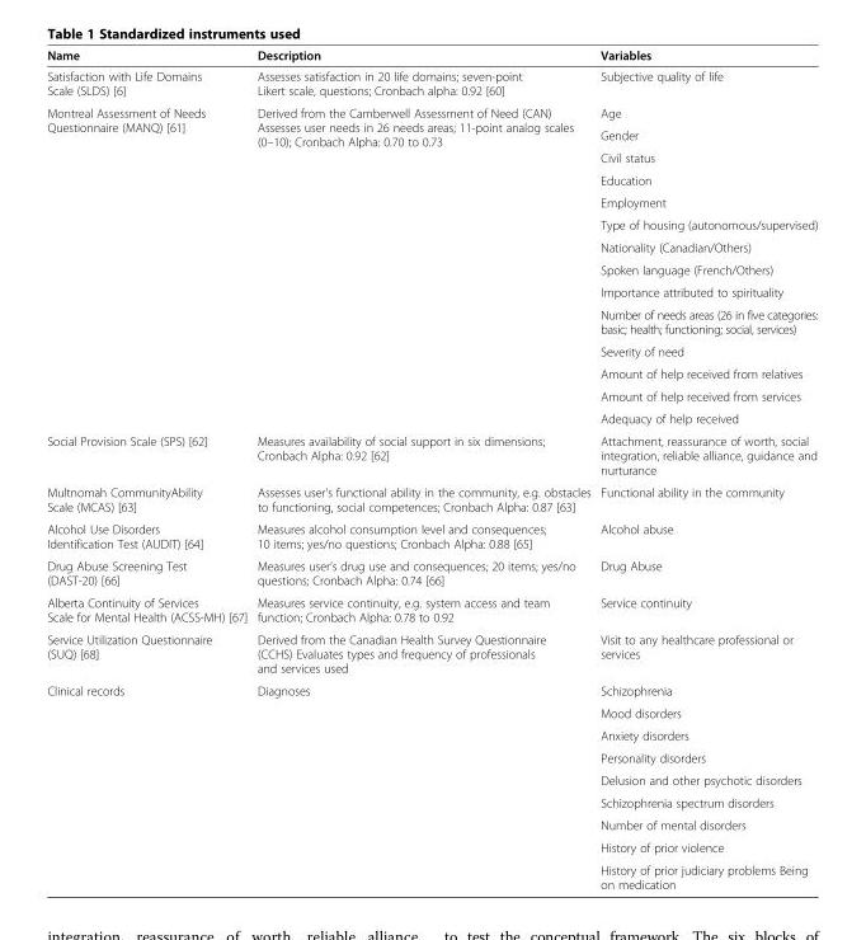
<table><thead><tr><td>Name</td><td>Description</td><td>Variables</td></tr></thead><tbody><tr><td>Satisfaction with Life Domains Scale (SLDS) [6]</td><td>Assesses satisfaction in 20 life domains; seven-point Likert scale, questions; Cronbach alpha: 0.92 [60]</td><td>Subjective quality of life</td></tr><tr><td rowspan="14">Montreal Assessment of Needs Questionnaire (MANQ) [61]</td><td rowspan="14">Derived from the Camberwell Assessment of Need (CAN) Assesses user needs in 26 needs areas; 11-point analog scales (0–10); Cronbach Alpha: 0.70 to 0.73</td><td>Age</td></tr><tr><td>Gender</td></tr><tr><td>Civil status</td></tr><tr><td>Education</td></tr><tr><td>Employment</td></tr><tr><td>Type of housing (autonomous/supervised)</td></tr><tr><td>Nationality (Canadian/Others)</td></tr><tr><td>Spoken language (French/Others)</td></tr><tr><td>Importance attributed to spirituality</td></tr><tr><td>Number of needs areas (26 in five categories: basic; health; functioning; social, services)</td></tr><tr><td>Severity of need</td></tr><tr><td>Amount of help received from relatives</td></tr><tr><td>Amount of help received from services</td></tr><tr><td>Adequacy of help received</td></tr><tr><td>Social Provision Scale (SPS) [62]</td><td>Measures availability of social support in six dimensions; Cronbach Alpha: 0.92 [62]</td><td>Attachment, reassurance of worth, social integration, reliable alliance, guidance and nurturance</td></tr><tr><td>Multnomah CommunityAbility Scale (MCAS) [63]</td><td>Assesses user’s functional ability in the community, e.g. obstacles to functioning, social competences; Cronbach Alpha: 0.87 [63]</td><td>Functional ability in the community</td></tr><tr><td>Alcohol Use Disorders Identification Test (AUDIT) [64]</td><td>Measures alcohol consumption level and consequences; 10 items; yes/no questions; Cronbach Alpha: 0.88 [65]</td><td>Alcohol abuse</td></tr><tr><td>Drug Abuse Screening Test (DAST-20) [66]</td><td>Measures user’s drug use and consequences; 20 items; yes/no questions; Cronbach Alpha: 0.74 [66]</td><td>Drug Abuse</td></tr><tr><td>Alberta Continuity of Services Scale for Mental Health (ACSS-MH) [67]</td><td>Measures service continuity, e.g. system access and team function; Cronbach Alpha: 0.78 to 0.92</td><td>Service continuity</td></tr><tr><td>Service Utilization Questionnaire (SUQ) [68]</td><td>Derived from the Canadian Health Survey Questionnaire (CCHS) Evaluates types and frequency of professionals and services used</td><td>Visit to any healthcare professional or services</td></tr><tr><td rowspan="9">Clinical records</td><td rowspan="8">Diagnoses</td><td>Schizophrenia</td></tr><tr><td>Mood disorders</td></tr><tr><td>Anxiety disorders</td></tr><tr><td>Personality disorders</td></tr><tr><td>Delusion and other psychotic disorders</td></tr><tr><td>Schizophrenia spectrum disorders</td></tr><tr><td>Number of mental disorders</td></tr><tr><td>History of prior violence</td></tr><tr><td></td><td>History of prior judiciary problems Being on medication</td></tr></tbody></table>